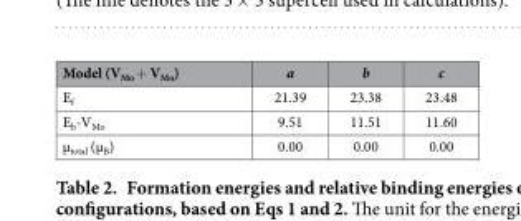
<table><thead><tr><td>Model (V<sub>Mo</sub> + V<sub>Mo</sub>)</td><td>a</td><td>b</td><td>c</td></tr></thead><tbody><tr><td>E<sub>f</sub></td><td>21.39</td><td>23.38</td><td>23.48</td></tr><tr><td>E<sub>b</sub>-V<sub>Mo</sub></td><td>9.51</td><td>11.51</td><td>11.60</td></tr><tr><td>μ<sub>total</sub> (μ<sub>B</sub>)</td><td>0.00</td><td>0.00</td><td>0.00</td></tr></tbody></table>